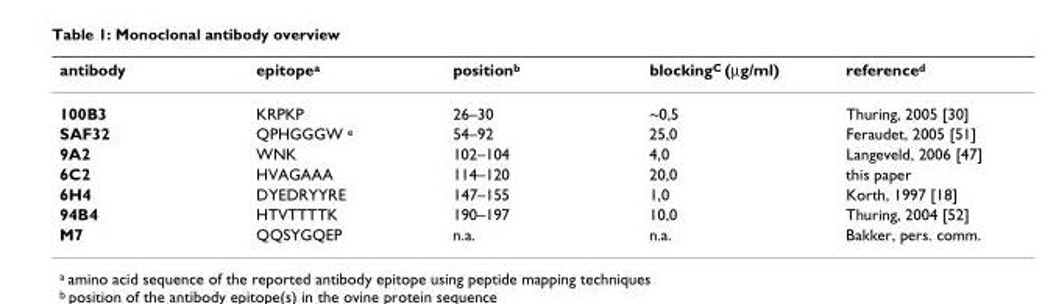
<table><thead><tr><td>antibody</td><td>epitope<sup>a</sup></td><td>position<sup>b</sup></td><td>blocking<sup>C</sup> (μg/ml)</td><td>reference<sup>d</sup></td></tr></thead><tbody><tr><td>100B3</td><td>KRPKP</td><td>26–30</td><td>~0,5</td><td>Thuring, 2005 [30]</td></tr><tr><td>SAF32</td><td>QPHGGGW <sup>e</sup></td><td>54–92</td><td>25,0</td><td>Feraudet, 2005 [51]</td></tr><tr><td>9A2</td><td>WNK</td><td>102–104</td><td>4,0</td><td>Langeveld, 2006 [47]</td></tr><tr><td>6C2</td><td>HVAGAAA</td><td>114–120</td><td>20,0</td><td>this paper</td></tr><tr><td>6H4</td><td>DYEDRYYRE</td><td>147–155</td><td>1,0</td><td>Korth, 1997 [18]</td></tr><tr><td>94B4</td><td>HTVTTTTK</td><td>190–197</td><td>10,0</td><td>Thuring, 2004 [52]</td></tr><tr><td>M7</td><td>QQSYGQEP</td><td>n.a.</td><td>n.a.</td><td>Bakker, pers. comm.</td></tr></tbody></table>